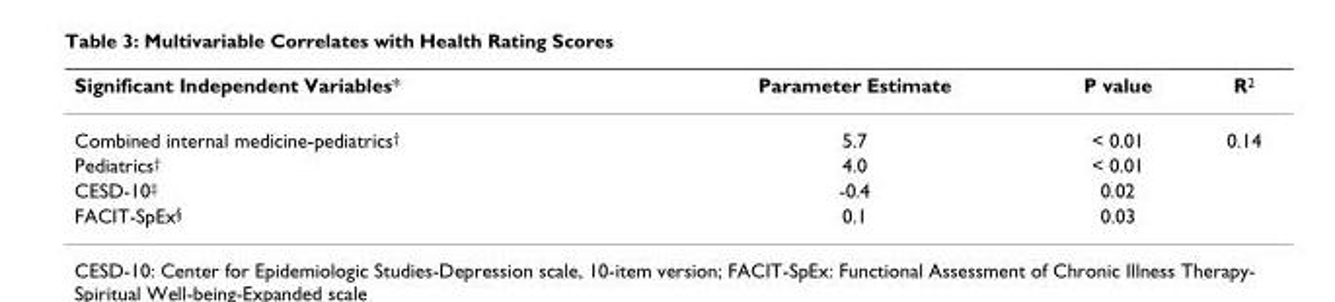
<table><thead><tr><td>Significant Independent Variables*</td><td>Parameter Estimate</td><td>P value</td><td>R<sup>2</sup></td></tr></thead><tbody><tr><td>Combined internal medicine-pediatrics<sup>†</sup></td><td>5.7</td><td>&lt; 0.01</td><td>0.14</td></tr><tr><td>Pediatrics<sup>†</sup></td><td>4.0</td><td>&lt; 0.01</td><td></td></tr><tr><td>CESD-10<sup>‡</sup></td><td>-0.4</td><td>0.02</td><td></td></tr><tr><td>FACIT-SpEx<sup>§</sup></td><td>0.1</td><td>0.03</td><td></td></tr></tbody></table>